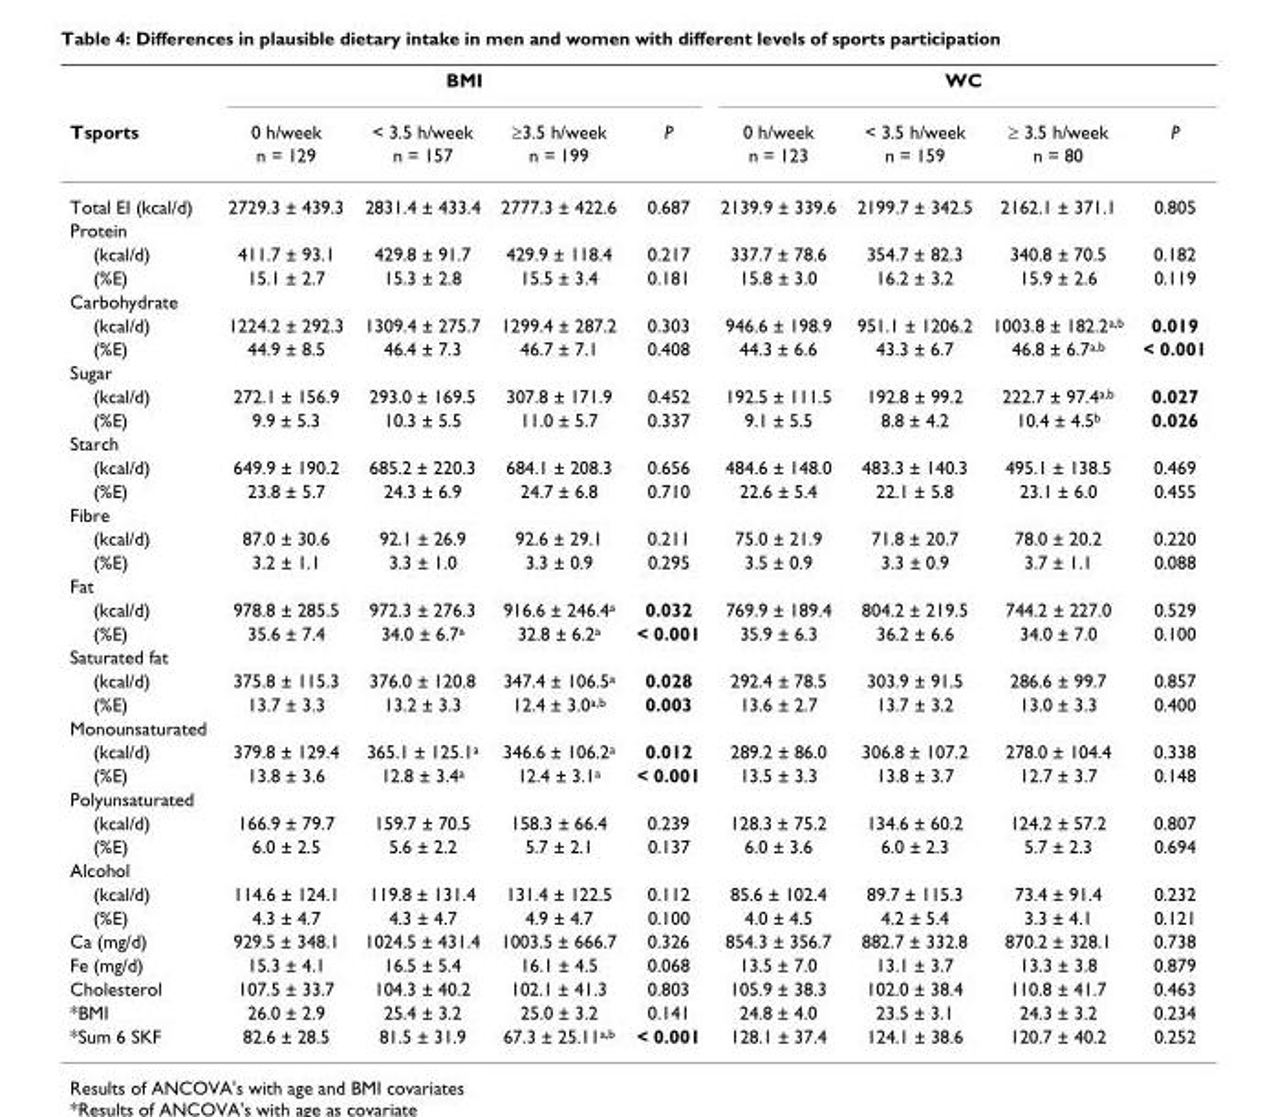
<table><thead><tr><td rowspan="3">Tsports</td><td colspan="4">BMI</td><td colspan="4">WC</td></tr><tr><td rowspan="2">0 h/week n = 129</td><td rowspan="2">&lt; 3.5 h/week n = 157</td><td rowspan="2">≥3.5 h/week n = 199</td><td rowspan="2">P</td><td rowspan="2">0 h/week n = 123</td><td rowspan="2">&lt; 3.5 h/week n = 159</td><td rowspan="2">≥ 3.5 h/week n = 80</td><td rowspan="2">P</td></tr><tr></tr></thead><tbody><tr><td>Total EI (kcal/d)</td><td>2729.3 ± 439.3</td><td>2831.4 ± 433.4</td><td>2777.3 ± 422.6</td><td>0.687</td><td>2139.9 ± 339.6</td><td>2199.7 ± 342.5</td><td>2162.1 ± 371.1</td><td>0.805</td></tr><tr><td colspan="9">Protein</td></tr><tr><td>(kcal/d)</td><td>411.7 ± 93.1</td><td>429.8 ± 91.7</td><td>429.9 ± 118.4</td><td>0.217</td><td>337.7 ± 78.6</td><td>354.7 ± 82.3</td><td>340.8 ± 70.5</td><td>0.182</td></tr><tr><td>(%E)</td><td>15.1 ± 2.7</td><td>15.3 ± 2.8</td><td>15.5 ± 3.4</td><td>0.181</td><td>15.8 ± 3.0</td><td>16.2 ± 3.2</td><td>15.9 ± 2.6</td><td>0.119</td></tr><tr><td colspan="9">Carbohydrate</td></tr><tr><td>(kcal/d)</td><td>1224.2 ± 292.3</td><td>1309.4 ± 275.7</td><td>1299.4 ± 287.2</td><td>0.303</td><td>946.6 ± 198.9</td><td>951.1 ± 1206.2</td><td>1003.8 ± 182.2<sup>a,b</sup></td><td>0.019</td></tr><tr><td>(%E)</td><td>44.9 ± 8.5</td><td>46.4 ± 7.3</td><td>46.7 ± 7.1</td><td>0.408</td><td>44.3 ± 6.6</td><td>43.3 ± 6.7</td><td>46.8 ± 6.7<sup>a,b</sup></td><td>&lt; 0.001</td></tr><tr><td colspan="9">Sugar</td></tr><tr><td>(kcal/d)</td><td>272.1 ± 156.9</td><td>293.0 ± 169.5</td><td>307.8 ± 171.9</td><td>0.452</td><td>192.5 ± 111.5</td><td>192.8 ± 99.2</td><td>222.7 ± 97.4<sup>a,b</sup></td><td>0.027</td></tr><tr><td>(%E)</td><td>9.9 ± 5.3</td><td>10.3 ± 5.5</td><td>11.0 ± 5.7</td><td>0.337</td><td>9.1 ± 5.5</td><td>8.8 ± 4.2</td><td>10.4 ± 4.5<sup>b</sup></td><td>0.026</td></tr><tr><td colspan="9">Starch</td></tr><tr><td>(kcal/d)</td><td>649.9 ± 190.2</td><td>685.2 ± 220.3</td><td>684.1 ± 208.3</td><td>0.656</td><td>484.6 ± 148.0</td><td>483.3 ± 140.3</td><td>495.1 ± 138.5</td><td>0.469</td></tr><tr><td>(%E)</td><td>23.8 ± 5.7</td><td>24.3 ± 6.9</td><td>24.7 ± 6.8</td><td>0.710</td><td>22.6 ± 5.4</td><td>22.1 ± 5.8</td><td>23.1 ± 6.0</td><td>0.455</td></tr><tr><td colspan="9">Fibre</td></tr><tr><td>(kcal/d)</td><td>87.0 ± 30.6</td><td>92.1 ± 26.9</td><td>92.6 ± 29.1</td><td>0.211</td><td>75.0 ± 21.9</td><td>71.8 ± 20.7</td><td>78.0 ± 20.2</td><td>0.220</td></tr><tr><td>(%E)</td><td>3.2 ± 1.1</td><td>3.3 ± 1.0</td><td>3.3 ± 0.9</td><td>0.295</td><td>3.5 ± 0.9</td><td>3.3 ± 0.9</td><td>3.7 ± 1.1</td><td>0.088</td></tr><tr><td colspan="9">Fat</td></tr><tr><td>(kcal/d)</td><td>978.8 ± 285.5</td><td>972.3 ± 276.3</td><td>916.6 ± 246.4<sup>a</sup></td><td>0.032</td><td>769.9 ± 189.4</td><td>804.2 ± 219.5</td><td>744.2 ± 227.0</td><td>0.529</td></tr><tr><td>(%E)</td><td>35.6 ± 7.4</td><td>34.0 ± 6.7<sup>a</sup></td><td>32.8 ± 6.2<sup>a</sup></td><td>&lt; 0.001</td><td>35.9 ± 6.3</td><td>36.2 ± 6.6</td><td>34.0 ± 7.0</td><td>0.100</td></tr><tr><td colspan="9">Saturated fat</td></tr><tr><td>(kcal/d)</td><td>375.8 ± 115.3</td><td>376.0 ± 120.8</td><td>347.4 ± 106.5<sup>a</sup></td><td>0.028</td><td>292.4 ± 78.5</td><td>303.9 ± 91.5</td><td>286.6 ± 99.7</td><td>0.857</td></tr><tr><td>(%E)</td><td>13.7 ± 3.3</td><td>13.2 ± 3.3</td><td>12.4 ± 3.0<sup>a,b</sup></td><td>0.003</td><td>13.6 ± 2.7</td><td>13.7 ± 3.2</td><td>13.0 ± 3.3</td><td>0.400</td></tr><tr><td colspan="9">Monounsaturated</td></tr><tr><td>(kcal/d)</td><td>379.8 ± 129.4</td><td>365.1 ± 125.1<sup>a</sup></td><td>346.6 ± 106.2<sup>a</sup></td><td>0.012</td><td>289.2 ± 86.0</td><td>306.8 ± 107.2</td><td>278.0 ± 104.4</td><td>0.338</td></tr><tr><td>(%E)</td><td>13.8 ± 3.6</td><td>12.8 ± 3.4<sup>a</sup></td><td>12.4 ± 3.1<sup>a</sup></td><td>&lt; 0.001</td><td>13.5 ± 3.3</td><td>13.8 ± 3.7</td><td>12.7 ± 3.7</td><td>0.148</td></tr><tr><td colspan="9">Polyunsaturated</td></tr><tr><td>(kcal/d)</td><td>166.9 ± 79.7</td><td>159.7 ± 70.5</td><td>158.3 ± 66.4</td><td>0.239</td><td>128.3 ± 75.2</td><td>134.6 ± 60.2</td><td>124.2 ± 57.2</td><td>0.807</td></tr><tr><td>(%E)</td><td>6.0 ± 2.5</td><td>5.6 ± 2.2</td><td>5.7 ± 2.1</td><td>0.137</td><td>6.0 ± 3.6</td><td>6.0 ± 2.3</td><td>5.7 ± 2.3</td><td>0.694</td></tr><tr><td colspan="9">Alcohol</td></tr><tr><td>(kcal/d)</td><td>114.6 ± 124.1</td><td>119.8 ± 131.4</td><td>131.4 ± 122.5</td><td>0.112</td><td>85.6 ± 102.4</td><td>89.7 ± 115.3</td><td>73.4 ± 91.4</td><td>0.232</td></tr><tr><td>(%E)</td><td>4.3 ± 4.7</td><td>4.3 ± 4.7</td><td>4.9 ± 4.7</td><td>0.100</td><td>4.0 ± 4.5</td><td>4.2 ± 5.4</td><td>3.3 ± 4.1</td><td>0.121</td></tr><tr><td>Ca (mg/d)</td><td>929.5 ± 348.1</td><td>1024.5 ± 431.4</td><td>1003.5 ± 666.7</td><td>0.326</td><td>854.3 ± 356.7</td><td>882.7 ± 332.8</td><td>870.2 ± 328.1</td><td>0.738</td></tr><tr><td>Fe (mg/d)</td><td>15.3 ± 4.1</td><td>16.5 ± 5.4</td><td>16.1 ± 4.5</td><td>0.068</td><td>13.5 ± 7.0</td><td>13.1 ± 3.7</td><td>13.3 ± 3.8</td><td>0.879</td></tr><tr><td>Cholesterol</td><td>107.5 ± 33.7</td><td>104.3 ± 40.2</td><td>102.1 ± 41.3</td><td>0.803</td><td>105.9 ± 38.3</td><td>102.0 ± 38.4</td><td>110.8 ± 41.7</td><td>0.463</td></tr><tr><td>*BMI</td><td>26.0 ± 2.9</td><td>25.4 ± 3.2</td><td>25.0 ± 3.2</td><td>0.141</td><td>24.8 ± 4.0</td><td>23.5 ± 3.1</td><td>24.3 ± 3.2</td><td>0.234</td></tr><tr><td>*Sum 6 SKF</td><td>82.6 ± 28.5</td><td>81.5 ± 31.9</td><td>67.3 ± 25.11<sup>a,b</sup></td><td>&lt; 0.001</td><td>128.1 ± 37.4</td><td>124.1 ± 38.6</td><td>120.7 ± 40.2</td><td>0.252</td></tr></tbody></table>